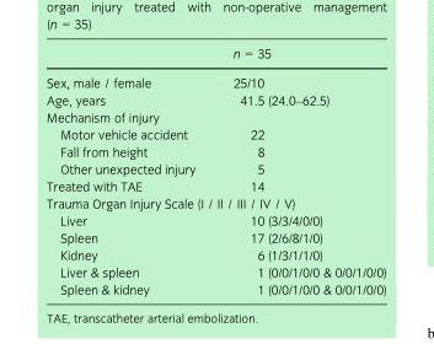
<table><thead><tr><td></td><td>n = 35</td></tr></thead><tbody><tr><td>Sex, male / female</td><td>25/10</td></tr><tr><td>Age, years</td><td>41.5 (24.0–62.5)</td></tr><tr><td colspan="2">Mechanism of injury</td></tr><tr><td>Motor vehicle accident</td><td>22</td></tr><tr><td>Fall from height</td><td>8</td></tr><tr><td>Other unexpected injury</td><td>5</td></tr><tr><td>Treated with TAE</td><td>14</td></tr><tr><td colspan="2">Trauma Organ Injury Scale (I / II / III / IV / V)</td></tr><tr><td>Liver</td><td>10 (3/3/4/0/0)</td></tr><tr><td>Spleen</td><td>17 (2/6/8/1/0)</td></tr><tr><td>Kidney</td><td>6 (1/3/1/1/0)</td></tr><tr><td>Liver &amp; spleen</td><td>1 (0/0/1/0/0 &amp; 0/0/1/0/0)</td></tr><tr><td>Spleen &amp; kidney</td><td>1 (0/0/1/0/0 &amp; 0/0/1/0/0)</td></tr></tbody></table>